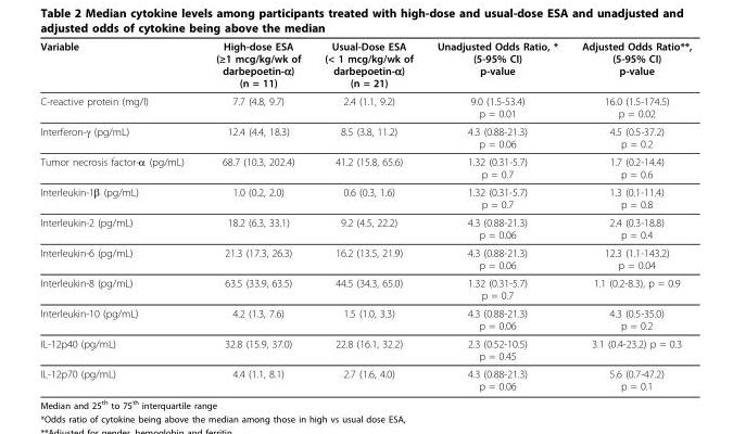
<table><thead><tr><td>Variable</td><td>High-dose ESA (≥1 mcg/kg/wk of darbepoetin-α) (n = 11)</td><td>Usual-Dose ESA (&lt; 1 mcg/kg/wk of darbepoetin-α) (n = 21)</td><td>Unadjusted Odds Ratio, * (5-95% CI) p-value</td><td>Adjusted Odds Ratio**, (5-95% CI) p-value</td></tr></thead><tbody><tr><td>C-reactive protein (mg/l)</td><td>7.7 (4.8, 9.7)</td><td>2.4 (1.1, 9.2)</td><td>9.0 (1.5-53.4) p = 0.01</td><td>16.0 (1.5-174.5) p = 0.02</td></tr><tr><td>Interferon-γ (pg/mL)</td><td>12.4 (4.4, 18.3)</td><td>8.5 (3.8, 11.2)</td><td>4.3 (0.88-21.3) p = 0.06</td><td>4.5 (0.5-37.2) p = 0.2</td></tr><tr><td>Tumor necrosis factor-α (pg/mL)</td><td>68.7 (10.3, 202.4)</td><td>41.2 (15.8, 65.6)</td><td>1.32 (0.31-5.7) p = 0.7</td><td>1.7 (0.2-14.4) p = 0.6</td></tr><tr><td>Interleukin-1β (pg/mL)</td><td>1.0 (0.2, 2.0)</td><td>0.6 (0.3, 1.6)</td><td>1.32 (0.31-5.7) p = 0.7</td><td>1.3 (0.1-11.4) p = 0.8</td></tr><tr><td>Interleukin-2 (pg/mL)</td><td>18.2 (6.3, 33.1)</td><td>9.2 (4.5, 22.2)</td><td>4.3 (0.88-21.3) p = 0.06</td><td>2.4 (0.3-18.8) p = 0.4</td></tr><tr><td>Interleukin-6 (pg/mL)</td><td>21.3 (17.3, 26.3)</td><td>16.2 (13.5, 21.9)</td><td>4.3 (0.88-21.3) p = 0.06</td><td>12.3 (1.1-143.2) p = 0.04</td></tr><tr><td>Interleukin-8 (pg/mL)</td><td>63.5 (33.9, 63.5)</td><td>44.5 (34.3, 65.0)</td><td>1.32 (0.31-5.7) p = 0.7</td><td>1.1 (0.2-8.3), p = 0.9</td></tr><tr><td>Interleukin-10 (pg/mL)</td><td>4.2 (1.3, 7.6)</td><td>1.5 (1.0, 3.3)</td><td>4.3 (0.88-21.3) p = 0.06</td><td>4.3 (0.5-35.0) p = 0.2</td></tr><tr><td>IL-12p40 (pg/mL)</td><td>32.8 (15.9, 37.0)</td><td>22.8 (16.1, 32.2)</td><td>2.3 (0.52-10.5) p = 0.45</td><td>3.1 (0.4-23.2) p = 0.3</td></tr><tr><td>IL-12p70 (pg/mL)</td><td>4.4 (1.1, 8.1)</td><td>2.7 (1.6, 4.0)</td><td>4.3 (0.88-21.3) p = 0.06</td><td>5.6 (0.7-47.2) p = 0.1</td></tr></tbody></table>